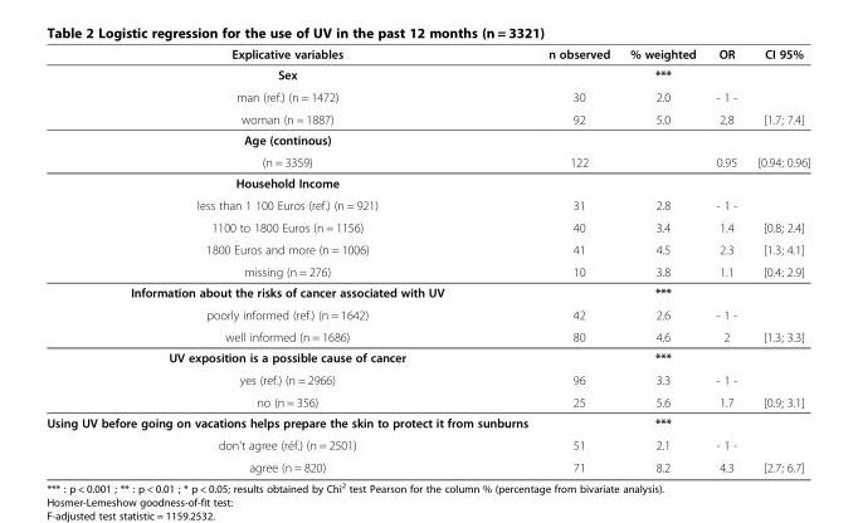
<table><thead><tr><td>Explicative variables</td><td>n observed</td><td>% weighted</td><td>OR</td><td>CI 95%</td></tr></thead><tbody><tr><td>Sex</td><td></td><td>***</td><td></td><td></td></tr><tr><td>man (ref.) (n = 1472)</td><td>30</td><td>2.0</td><td>- 1 -</td><td></td></tr><tr><td>woman (n = 1887)</td><td>92</td><td>5.0</td><td>2,8</td><td>[1.7; 7.4]</td></tr><tr><td colspan="5">Age (continous)</td></tr><tr><td>(n = 3359)</td><td>122</td><td></td><td>0.95</td><td>[0.94; 0.96]</td></tr><tr><td colspan="5">Household Income</td></tr><tr><td>less than 1 100 Euros (ref.) (n = 921)</td><td>31</td><td>2.8</td><td>- 1 -</td><td></td></tr><tr><td>1100 to 1800 Euros (n = 1156)</td><td>40</td><td>3.4</td><td>1.4</td><td>[0.8; 2.4]</td></tr><tr><td>1800 Euros and more (n = 1006)</td><td>41</td><td>4.5</td><td>2.3</td><td>[1.3; 4.1]</td></tr><tr><td>missing (n = 276)</td><td>10</td><td>3.8</td><td>1.1</td><td>[0.4; 2.9]</td></tr><tr><td>Information about the risks of cancer associated with UV</td><td></td><td>***</td><td></td><td></td></tr><tr><td>poorly informed (ref.) (n = 1642)</td><td>42</td><td>2.6</td><td>- 1 -</td><td></td></tr><tr><td>well informed (n = 1686)</td><td>80</td><td>4.6</td><td>2</td><td>[1.3; 3.3]</td></tr><tr><td>UV exposition is a possible cause of cancer</td><td></td><td>***</td><td></td><td></td></tr><tr><td>yes (ref.) (n = 2966)</td><td>96</td><td>3.3</td><td>- 1 -</td><td></td></tr><tr><td>no (n = 356)</td><td>25</td><td>5.6</td><td>1.7</td><td>[0.9; 3.1]</td></tr><tr><td>Using UV before going on vacations helps prepare the skin to protect it from sunburns</td><td></td><td>***</td><td></td><td></td></tr><tr><td>don&#x27;t agree (réf.) (n = 2501)</td><td>51</td><td>2.1</td><td>- 1 -</td><td></td></tr><tr><td>agree (n = 820)</td><td>71</td><td>8.2</td><td>4.3</td><td>[2.7; 6.7]</td></tr></tbody></table>